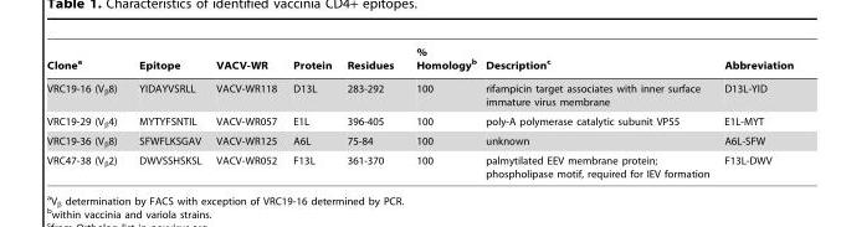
<table><thead><tr><td>Clone<sup>a</sup></td><td>Epitope</td><td>VACV-WR</td><td>Protein</td><td>Residues</td><td>% Homology<sup>b</sup></td><td>Description<sup>c</sup></td><td>Abbreviation</td></tr></thead><tbody><tr><td>VRC19-16 (V<sub>β</sub>8)</td><td>YIDAYVSRLL</td><td>VACV-WR118</td><td>D13L</td><td>283-292</td><td>100</td><td>rifampicin target associates with inner surface immature virus membrane</td><td>D13L-YID</td></tr><tr><td>VRC19-29 (V<sub>β</sub>4)</td><td>MYTYFSNTIL</td><td>VACV-WR057</td><td>E1L</td><td>396-405</td><td>100</td><td>poly-A polymerase catalytic subunit VP55</td><td>E1L-MYT</td></tr><tr><td>VRC19-36 (V<sub>β</sub>8)</td><td>SFWFLKSGAV</td><td>VACV-WR125</td><td>A6L</td><td>75-84</td><td>100</td><td>unknown</td><td>A6L-SFW</td></tr><tr><td>VRC47-38 (V<sub>β</sub>2)</td><td>DWVSSHSKSL</td><td>VACV-WR052</td><td>F13L</td><td>361-370</td><td>100</td><td>palmytilated EEV membrane protein; phospholipase motif, required for IEV formation</td><td>F13L-DWV</td></tr></tbody></table>